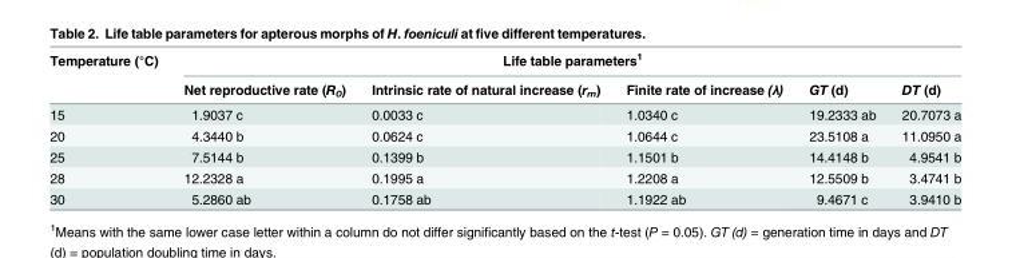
<table><thead><tr><td rowspan="2">Temperature (°C)</td><td colspan="5">Life table parameters<sup>1</sup></td></tr><tr><td>Net reproductive rate (R<sub>0</sub>)</td><td>Intrinsic rate of natural increase (r<sub>m</sub>)</td><td>Finite rate of increase (λ)</td><td>GT (d)</td><td>DT (d)</td></tr></thead><tbody><tr><td>15</td><td>1.9037 c</td><td>0.0033 c</td><td>1.0340 c</td><td>19.2333 ab</td><td>20.7073 a</td></tr><tr><td>20</td><td>4.3440 b</td><td>0.0624 c</td><td>1.0644 c</td><td>23.5108 a</td><td>11.0950 a</td></tr><tr><td>25</td><td>7.5144 b</td><td>0.1399 b</td><td>1.1501 b</td><td>14.4148 b</td><td>4.9541 b</td></tr><tr><td>28</td><td>12.2328 a</td><td>0.1995 a</td><td>1.2208 a</td><td>12.5509 b</td><td>3.4741 b</td></tr><tr><td>30</td><td>5.2860 ab</td><td>0.1758 ab</td><td>1.1922 ab</td><td>9.4671 c</td><td>3.9410 b</td></tr></tbody></table>